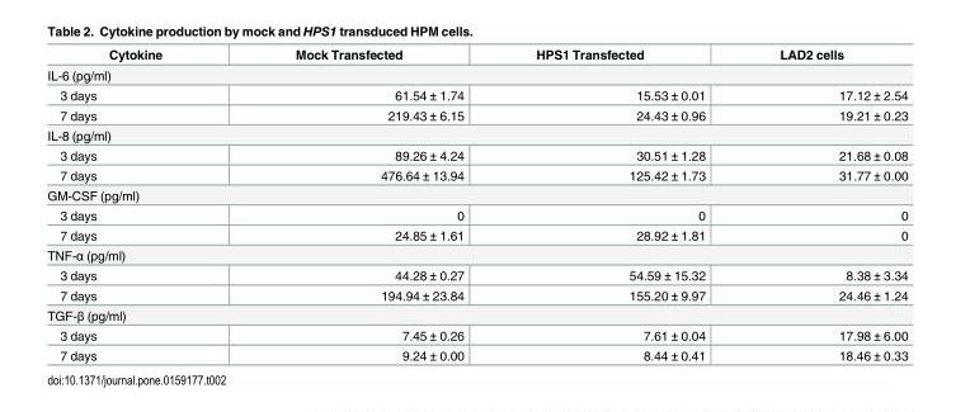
<table><thead><tr><td>Cytokine</td><td>Mock Transfected</td><td>HPS1 Transfected</td><td>LAD2 cells</td></tr></thead><tbody><tr><td colspan="4">IL-6 (pg/ml)</td></tr><tr><td>3 days</td><td>61.54 ± 1.74</td><td>15.53 ± 0.01</td><td>17.12 ± 2.54</td></tr><tr><td>7 days</td><td>219.43 ± 6.15</td><td>24.43 ± 0.96</td><td>19.21 ± 0.23</td></tr><tr><td colspan="4">IL-8 (pg/ml)</td></tr><tr><td>3 days</td><td>89.26 ± 4.24</td><td>30.51 ± 1.28</td><td>21.68 ± 0.08</td></tr><tr><td>7 days</td><td>476.64 ± 13.94</td><td>125.42 ± 1.73</td><td>31.77 ± 0.00</td></tr><tr><td colspan="4">GM-CSF (pg/ml)</td></tr><tr><td>3 days</td><td>0</td><td>0</td><td>0</td></tr><tr><td>7 days</td><td>24.85 ± 1.61</td><td>28.92 ± 1.81</td><td>0</td></tr><tr><td colspan="4">TNF-α (pg/ml)</td></tr><tr><td>3 days</td><td>44.28 ± 0.27</td><td>54.59 ± 15.32</td><td>8.38 ± 3.34</td></tr><tr><td>7 days</td><td>194.94 ± 23.84</td><td>155.20 ± 9.97</td><td>24.46 ± 1.24</td></tr><tr><td colspan="4">TGF-β (pg/ml)</td></tr><tr><td>3 days</td><td>7.45 ± 0.26</td><td>7.61 ± 0.04</td><td>17.98 ± 6.00</td></tr><tr><td>7 days</td><td>9.24 ± 0.00</td><td>8.44 ± 0.41</td><td>18.46 ± 0.33</td></tr></tbody></table>